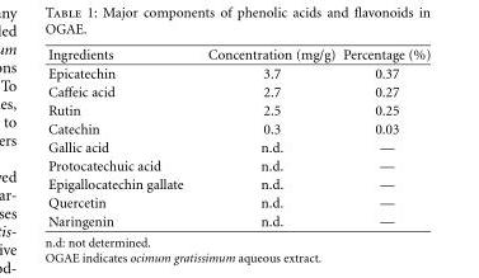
<table><thead><tr><td>Ingredients</td><td>Concentration (mg/g)</td><td>Percentage (%)</td></tr></thead><tbody><tr><td>Epicatechin</td><td>3.7</td><td>0.37</td></tr><tr><td>Caffeic acid</td><td>2.7</td><td>0.27</td></tr><tr><td>Rutin</td><td>2.5</td><td>0.25</td></tr><tr><td>Catechin</td><td>0.3</td><td>0.03</td></tr><tr><td>Gallic acid</td><td>n.d.</td><td>—</td></tr><tr><td>Protocatechuic acid</td><td>n.d.</td><td>—</td></tr><tr><td>Epigallocatechin gallate</td><td>n.d.</td><td>—</td></tr><tr><td>Quercetin</td><td>n.d.</td><td>—</td></tr><tr><td>Naringenin</td><td>n.d.</td><td>—</td></tr></tbody></table>